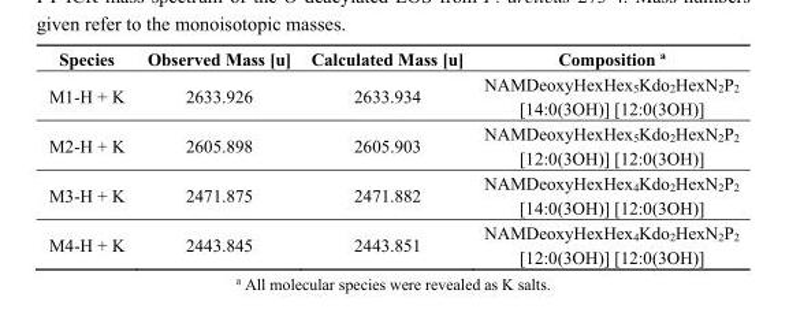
<table><thead><tr><td>Species</td><td>Observed Mass [u]</td><td>Calculated Mass [u]</td><td>Composition <sup>a</sup></td></tr></thead><tbody><tr><td>M1-H + K</td><td>2633.926</td><td>2633.934</td><td>NAMDeoxyHexHex<sub>5</sub>Kdo<sub>2</sub>HexN<sub>2</sub>P<sub>2</sub> [14:0(3OH)] [12:0(3OH)]</td></tr><tr><td>M2-H + K</td><td>2605.898</td><td>2605.903</td><td>NAMDeoxyHexHex<sub>5</sub>Kdo<sub>2</sub>HexN<sub>2</sub>P<sub>2</sub> [12:0(3OH)] [12:0(3OH)]</td></tr><tr><td>M3-H + K</td><td>2471.875</td><td>2471.882</td><td>NAMDeoxyHexHex<sub>4</sub>Kdo<sub>2</sub>HexN<sub>2</sub>P<sub>2</sub> [14:0(3OH)] [12:0(3OH)]</td></tr><tr><td>M4-H + K</td><td>2443.845</td><td>2443.851</td><td>NAMDeoxyHexHex<sub>4</sub>Kdo<sub>2</sub>HexN<sub>2</sub>P<sub>2</sub> [12:0(3OH)] [12:0(3OH)]</td></tr></tbody></table>